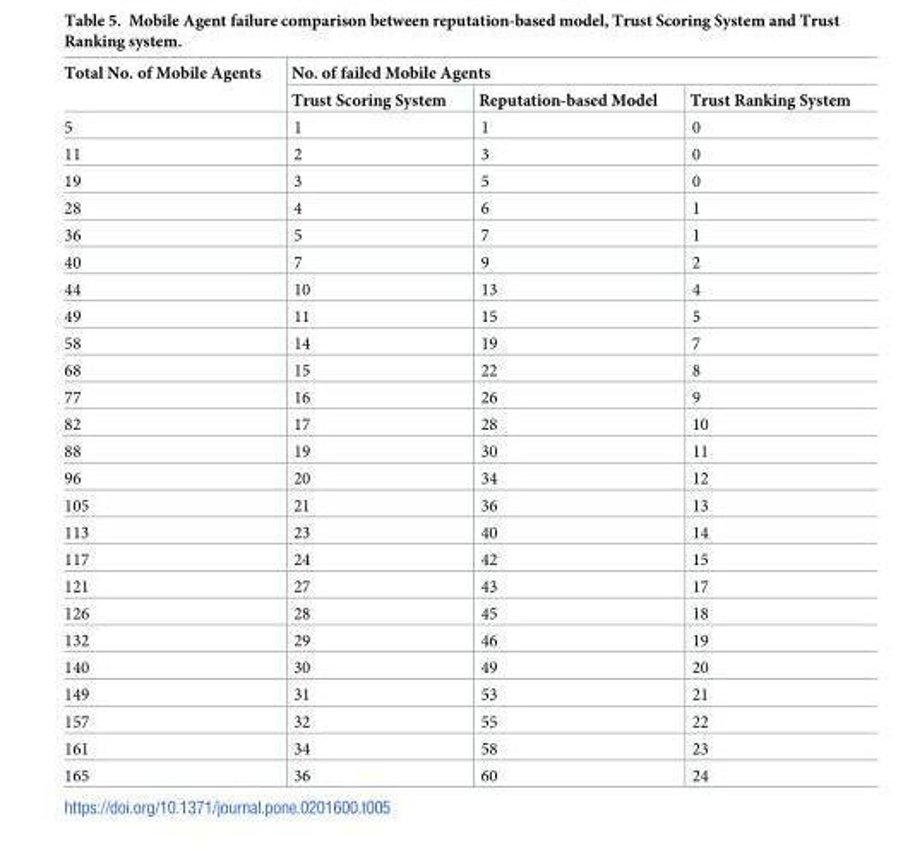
<table><thead><tr><td rowspan="2">Total No. of Mobile Agents</td><td colspan="3">No. of failed Mobile Agents</td></tr><tr><td>Trust Scoring System</td><td>Reputation-based Model</td><td>Trust Ranking System</td></tr></thead><tbody><tr><td>5</td><td>1</td><td>1</td><td>0</td></tr><tr><td>11</td><td>2</td><td>3</td><td>0</td></tr><tr><td>19</td><td>3</td><td>5</td><td>0</td></tr><tr><td>28</td><td>4</td><td>6</td><td>1</td></tr><tr><td>36</td><td>5</td><td>7</td><td>1</td></tr><tr><td>40</td><td>7</td><td>9</td><td>2</td></tr><tr><td>44</td><td>10</td><td>13</td><td>4</td></tr><tr><td>49</td><td>11</td><td>15</td><td>5</td></tr><tr><td>58</td><td>14</td><td>19</td><td>7</td></tr><tr><td>68</td><td>15</td><td>22</td><td>8</td></tr><tr><td>77</td><td>16</td><td>26</td><td>9</td></tr><tr><td>82</td><td>17</td><td>28</td><td>10</td></tr><tr><td>88</td><td>19</td><td>30</td><td>11</td></tr><tr><td>96</td><td>20</td><td>34</td><td>12</td></tr><tr><td>105</td><td>21</td><td>36</td><td>13</td></tr><tr><td>113</td><td>23</td><td>40</td><td>14</td></tr><tr><td>117</td><td>24</td><td>42</td><td>15</td></tr><tr><td>121</td><td>27</td><td>43</td><td>17</td></tr><tr><td>126</td><td>28</td><td>45</td><td>18</td></tr><tr><td>132</td><td>29</td><td>46</td><td>19</td></tr><tr><td>140</td><td>30</td><td>49</td><td>20</td></tr><tr><td>149</td><td>31</td><td>53</td><td>21</td></tr><tr><td>157</td><td>32</td><td>55</td><td>22</td></tr><tr><td>161</td><td>34</td><td>58</td><td>23</td></tr><tr><td>165</td><td>36</td><td>60</td><td>24</td></tr></tbody></table>